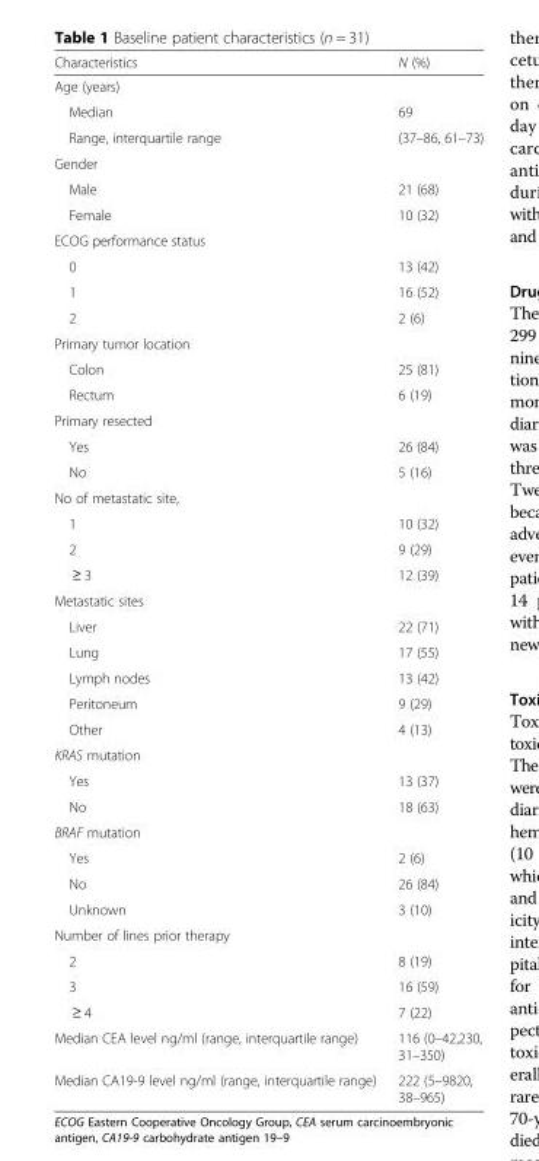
<table><thead><tr><td>Characteristics</td><td>N (%)</td></tr></thead><tbody><tr><td colspan="2">Age (years)</td></tr><tr><td>Median</td><td>69</td></tr><tr><td>Range, interquartile range</td><td>(37–86, 61–73)</td></tr><tr><td colspan="2">Gender</td></tr><tr><td>Male</td><td>21 (68)</td></tr><tr><td>Female</td><td>10 (32)</td></tr><tr><td colspan="2">ECOG performance status</td></tr><tr><td>0</td><td>13 (42)</td></tr><tr><td>1</td><td>16 (52)</td></tr><tr><td>2</td><td>2 (6)</td></tr><tr><td colspan="2">Primary tumor location</td></tr><tr><td>Colon</td><td>25 (81)</td></tr><tr><td>Rectum</td><td>6 (19)</td></tr><tr><td colspan="2">Primary resected</td></tr><tr><td>Yes</td><td>26 (84)</td></tr><tr><td>No</td><td>5 (16)</td></tr><tr><td colspan="2">No of metastatic site,</td></tr><tr><td>1</td><td>10 (32)</td></tr><tr><td>2</td><td>9 (29)</td></tr><tr><td>≥ 3</td><td>12 (39)</td></tr><tr><td colspan="2">Metastatic sites</td></tr><tr><td>Liver</td><td>22 (71)</td></tr><tr><td>Lung</td><td>17 (55)</td></tr><tr><td>Lymph nodes</td><td>13 (42)</td></tr><tr><td>Peritoneum</td><td>9 (29)</td></tr><tr><td>Other</td><td>4 (13)</td></tr><tr><td colspan="2">KRAS mutation</td></tr><tr><td>Yes</td><td>13 (37)</td></tr><tr><td>No</td><td>18 (63)</td></tr><tr><td colspan="2">BRAF mutation</td></tr><tr><td>Yes</td><td>2 (6)</td></tr><tr><td>No</td><td>26 (84)</td></tr><tr><td>Unknown</td><td>3 (10)</td></tr><tr><td colspan="2">Number of lines prior therapy</td></tr><tr><td>2</td><td>8 (19)</td></tr><tr><td>3</td><td>16 (59)</td></tr><tr><td>≥ 4</td><td>7 (22)</td></tr><tr><td>Median CEA level ng/ml (range, interquartile range)</td><td>116 (0–42,230, 31–350)</td></tr><tr><td>Median CA19-9 level ng/ml (range, interquartile range)</td><td>222 (5–9820, 38–965)</td></tr></tbody></table>